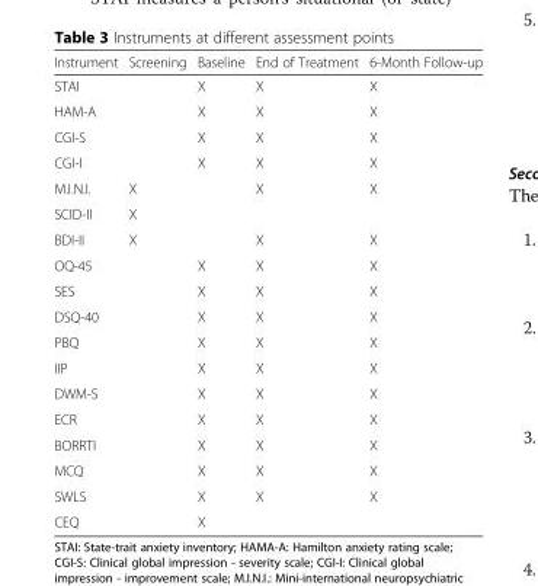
<table><thead><tr><td>Instrument</td><td>Screening</td><td>Baseline</td><td>End of Treatment</td><td>6-Month Follow-up</td></tr></thead><tbody><tr><td>STAI</td><td></td><td>X</td><td>X</td><td>X</td></tr><tr><td>HAM-A</td><td></td><td>X</td><td>X</td><td>X</td></tr><tr><td>CGI-S</td><td></td><td>X</td><td>X</td><td>X</td></tr><tr><td>CGI-I</td><td></td><td>X</td><td>X</td><td>X</td></tr><tr><td>M.I.N.I.</td><td>X</td><td></td><td>X</td><td>X</td></tr><tr><td>SCID-II</td><td>X</td><td></td><td></td><td></td></tr><tr><td>BDI-II</td><td>X</td><td></td><td>X</td><td>X</td></tr><tr><td>OQ-45</td><td></td><td>X</td><td>X</td><td>X</td></tr><tr><td>SES</td><td></td><td>X</td><td>X</td><td>X</td></tr><tr><td>DSQ-40</td><td></td><td>X</td><td>X</td><td>X</td></tr><tr><td>PBQ</td><td></td><td>X</td><td>X</td><td>X</td></tr><tr><td>IIP</td><td></td><td>X</td><td>X</td><td>X</td></tr><tr><td>DWM-S</td><td></td><td>X</td><td>X</td><td>X</td></tr><tr><td>ECR</td><td></td><td>X</td><td>X</td><td>X</td></tr><tr><td>BORRTI</td><td></td><td>X</td><td>X</td><td>X</td></tr><tr><td>MCQ</td><td></td><td>X</td><td>X</td><td>X</td></tr><tr><td>SWLS</td><td></td><td>X</td><td>X</td><td>X</td></tr><tr><td>CEQ</td><td></td><td>X</td><td></td><td></td></tr></tbody></table>